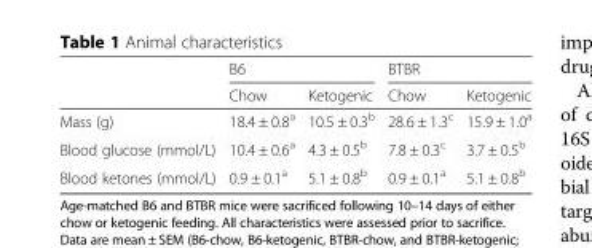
<table><thead><tr><td rowspan="2"></td><td colspan="2">B6</td><td colspan="2">BTBR</td></tr><tr><td>Chow</td><td>Ketogenic</td><td>Chow</td><td>Ketogenic</td></tr></thead><tbody><tr><td>Mass (g)</td><td>18.4 ± 0.8<sup>a</sup></td><td>10.5 ± 0.3<sup>b</sup></td><td>28.6 ± 1.3<sup>c</sup></td><td>15.9 ± 1.0<sup>a</sup></td></tr><tr><td>Blood glucose (mmol/L)</td><td>10.4 ± 0.6<sup>a</sup></td><td>4.3 ± 0.5<sup>b</sup></td><td>7.8 ± 0.3<sup>c</sup></td><td>3.7 ± 0.5<sup>b</sup></td></tr><tr><td>Blood ketones (mmol/L)</td><td>0.9 ± 0.1<sup>a</sup></td><td>5.1 ± 0.8<sup>b</sup></td><td>0.9 ± 0.1<sup>a</sup></td><td>5.1 ± 0.8<sup>b</sup></td></tr></tbody></table>